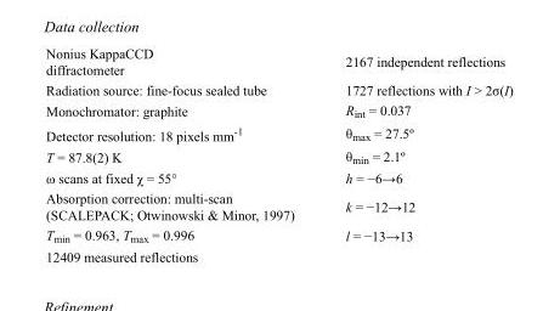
<table><tbody><tr><td>Nonius KappaCCD diffractometer</td><td>2167 independent reflections</td></tr><tr><td>Radiation source: fine-focus sealed tube</td><td>1727 reflections with I &gt; 2σ(I)</td></tr><tr><td>Monochromator: graphite</td><td>R<sub>int</sub> = 0.037</td></tr><tr><td>Detector resolution: 18 pixels mm<sup>-1</sup></td><td>θ<sub>max</sub> = 27.5º</td></tr><tr><td>T = 87.8(2) K</td><td>θ<sub>min</sub> = 2.1º</td></tr><tr><td>ω scans at fixed χ = 55°</td><td>h = −6→6</td></tr><tr><td>Absorption correction: multi-scan (SCALEPACK; Otwinowski &amp; Minor, 1997)</td><td>k = −12→12</td></tr><tr><td>T<sub>min</sub> = 0.963, T<sub>max</sub> = 0.996</td><td>l = −13→13</td></tr><tr><td>12409 measured reflections</td><td></td></tr></tbody></table>